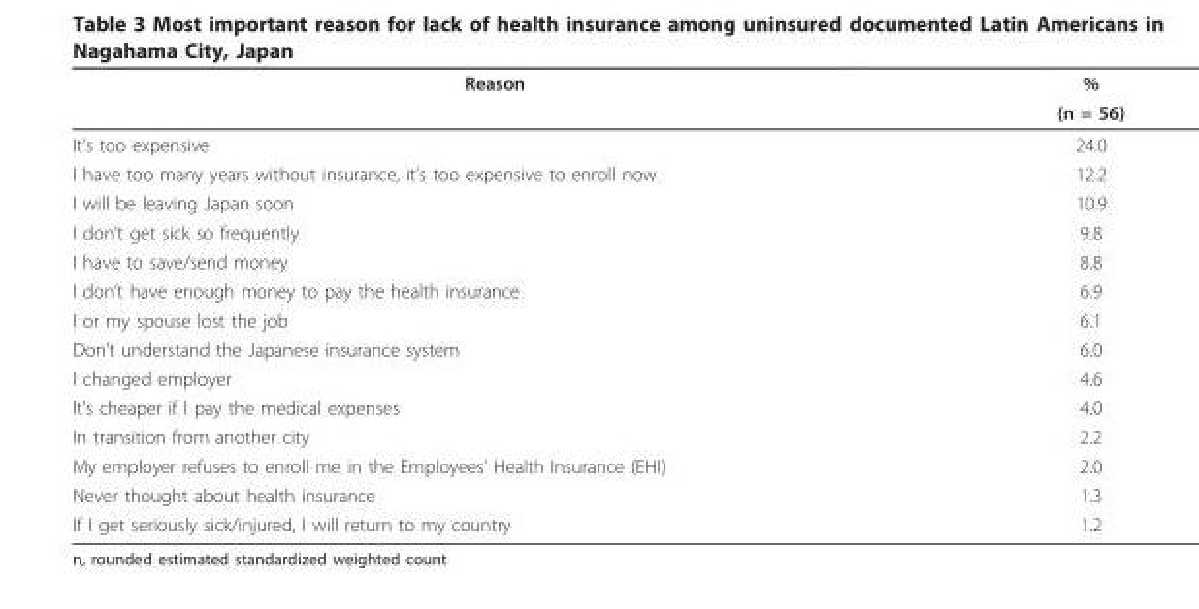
<table><thead><tr><td rowspan="2">Reason</td><td rowspan="2">% (n = 56)</td></tr><tr></tr></thead><tbody><tr><td>It’s too expensive</td><td>24.0</td></tr><tr><td>I have too many years without insurance, it’s too expensive to enroll now</td><td>12.2</td></tr><tr><td>I will be leaving Japan soon</td><td>10.9</td></tr><tr><td>I don’t get sick so frequently</td><td>9.8</td></tr><tr><td>I have to save/send money</td><td>8.8</td></tr><tr><td>I don’t have enough money to pay the health insurance</td><td>6.9</td></tr><tr><td>I or my spouse lost the job</td><td>6.1</td></tr><tr><td>Don’t understand the Japanese insurance system</td><td>6.0</td></tr><tr><td>I changed employer</td><td>4.6</td></tr><tr><td>It’s cheaper if I pay the medical expenses</td><td>4.0</td></tr><tr><td>In transition from another city</td><td>2.2</td></tr><tr><td>My employer refuses to enroll me in the Employees’ Health Insurance (EHI)</td><td>2.0</td></tr><tr><td>Never thought about health insurance</td><td>1.3</td></tr><tr><td>If I get seriously sick/injured, I will return to my country</td><td>1.2</td></tr></tbody></table>